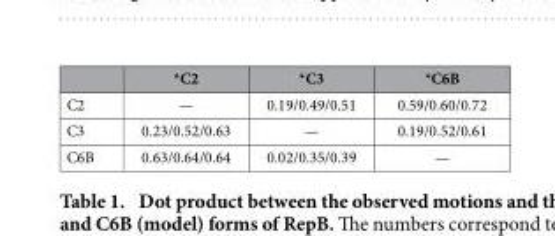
<table><thead><tr><td></td><td>*C2</td><td>*C3</td><td>*C6B</td></tr></thead><tbody><tr><td>C2</td><td>—</td><td>0.19/0.49/0.51</td><td>0.59/0.60/0.72</td></tr><tr><td>C3</td><td>0.23/0.52/0.63</td><td>—</td><td>0.19/0.52/0.61</td></tr><tr><td>C6B</td><td>0.63/0.64/0.64</td><td>0.02/0.35/0.39</td><td>—</td></tr></tbody></table>